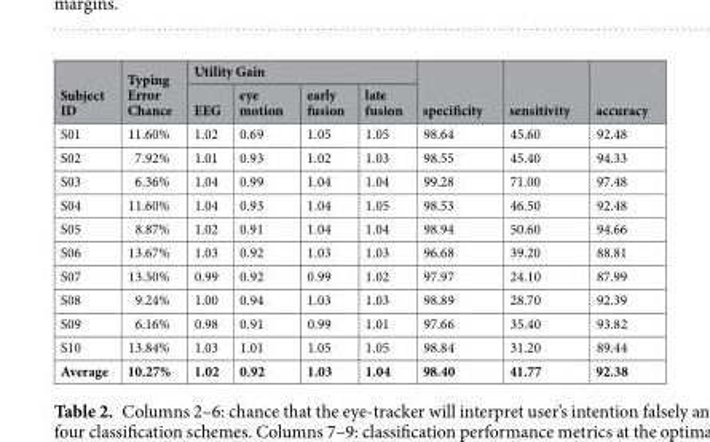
<table><thead><tr><td rowspan="2">Subject ID</td><td rowspan="2">Typing Error Chance</td><td colspan="4">Utility Gain</td><td rowspan="2">specificity</td><td rowspan="2">sensitivity</td><td rowspan="2">accuracy</td></tr><tr><td>EEG</td><td>eye motion</td><td>early fusion</td><td>late fusion</td></tr></thead><tbody><tr><td>S01</td><td>11.60%</td><td>1.02</td><td>0.69</td><td>1.05</td><td>1.05</td><td>98.64</td><td>45.60</td><td>92.48</td></tr><tr><td>S02</td><td>7.92%</td><td>1.01</td><td>0.93</td><td>1.02</td><td>1.03</td><td>98.55</td><td>45.40</td><td>94.33</td></tr><tr><td>S03</td><td>6.36%</td><td>1.04</td><td>0.99</td><td>1.04</td><td>1.04</td><td>99.28</td><td>71.00</td><td>97.48</td></tr><tr><td>S04</td><td>11.60%</td><td>1.04</td><td>0.93</td><td>1.04</td><td>1.05</td><td>98.53</td><td>46.50</td><td>92.48</td></tr><tr><td>S05</td><td>8.87%</td><td>1.02</td><td>0.91</td><td>1.04</td><td>1.04</td><td>98.94</td><td>50.60</td><td>94.66</td></tr><tr><td>S06</td><td>13.67%</td><td>1.03</td><td>0.92</td><td>1.03</td><td>1.03</td><td>96.68</td><td>39.20</td><td>88.81</td></tr><tr><td>S07</td><td>13.50%</td><td>0.99</td><td>0.92</td><td>0.99</td><td>1.02</td><td>97.97</td><td>24.10</td><td>87.99</td></tr><tr><td>S08</td><td>9.24%</td><td>1.00</td><td>0.94</td><td>1.03</td><td>1.03</td><td>98.89</td><td>28.70</td><td>92.39</td></tr><tr><td>S09</td><td>6.16%</td><td>0.98</td><td>0.91</td><td>0.99</td><td>1.01</td><td>97.66</td><td>35.40</td><td>93.82</td></tr><tr><td>S10</td><td>13.84%</td><td>1.03</td><td>1.01</td><td>1.05</td><td>1.05</td><td>98.84</td><td>31.20</td><td>89.44</td></tr><tr><td>Average</td><td>10.27%</td><td>1.02</td><td>0.92</td><td>1.03</td><td>1.04</td><td>98.40</td><td>41.77</td><td>92.38</td></tr></tbody></table>